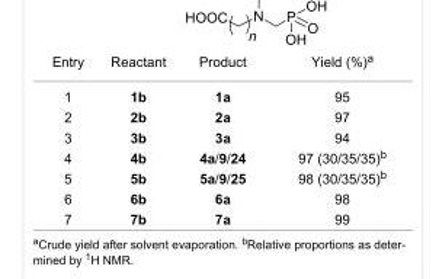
<table><tbody><tr><td>Entry</td><td>Reactant</td><td>Product</td><td>Yield (%)<sup>a</sup></td></tr><tr><td>1</td><td>1b</td><td>1a</td><td>95</td></tr><tr><td>2</td><td>2b</td><td>2a</td><td>97</td></tr><tr><td>3</td><td>3b</td><td>3a</td><td>94</td></tr><tr><td>4</td><td>4b</td><td>4a/9/24</td><td>97 (30/35/35)<sup>b</sup></td></tr><tr><td>5</td><td>5b</td><td>5a/9/25</td><td>98 (30/35/35)<sup>b</sup></td></tr><tr><td>6</td><td>6b</td><td>6a</td><td>98</td></tr><tr><td>7</td><td>7b</td><td>7a</td><td>99</td></tr></tbody></table>